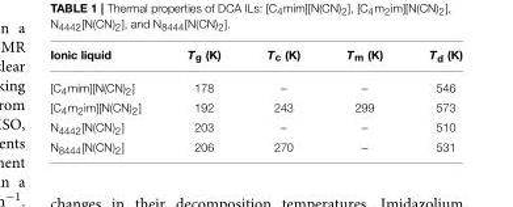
<table><thead><tr><td>Ionic liquid</td><td>T<sub>g</sub> (K)</td><td>T<sub>c</sub> (K)</td><td>T<sub>m</sub> (K)</td><td>T<sub>d</sub> (K)</td></tr></thead><tbody><tr><td>[C<sub>4</sub>mim][N(CN)<sub>2</sub>]</td><td>178</td><td>–</td><td>–</td><td>546</td></tr><tr><td>[C<sub>4</sub>m<sub>2</sub>im][N(CN)<sub>2</sub>]</td><td>192</td><td>243</td><td>299</td><td>573</td></tr><tr><td>N<sub>4442</sub>[N(CN)<sub>2</sub>]</td><td>203</td><td>–</td><td>–</td><td>510</td></tr><tr><td>N<sub>8444</sub>[N(CN)<sub>2</sub>]</td><td>206</td><td>270</td><td>–</td><td>531</td></tr></tbody></table>